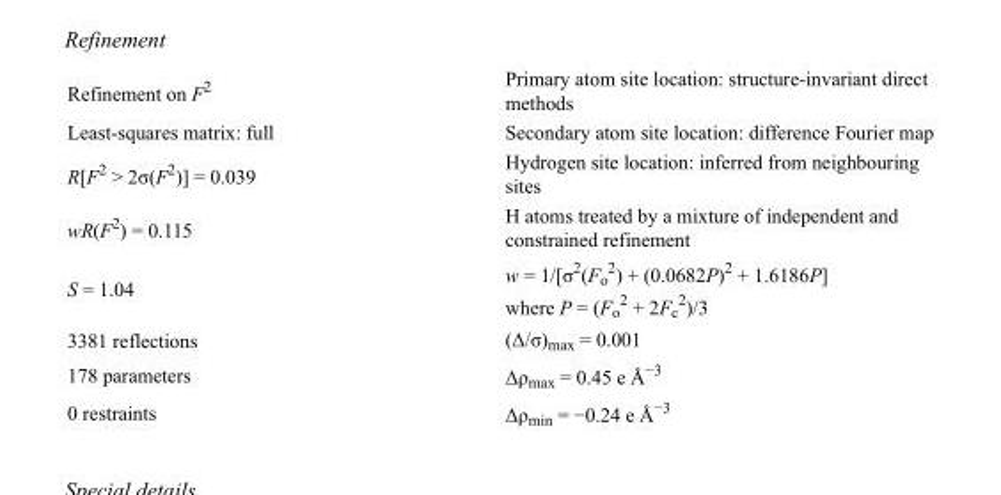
<table><tbody><tr><td>Refinement on F<sup>2</sup></td><td>Primary atom site location: structure-invariant direct methods</td></tr><tr><td>Least-squares matrix: full</td><td>Secondary atom site location: difference Fourier map</td></tr><tr><td>R[F<sup>2</sup> &gt; 2σ(F<sup>2</sup>)] = 0.039</td><td>Hydrogen site location: inferred from neighbouring sites</td></tr><tr><td>wR(F<sup>2</sup>) = 0.115</td><td>H atoms treated by a mixture of independent and constrained refinement</td></tr><tr><td>S = 1.04</td><td>w = 1/[σ<sup>2</sup>(F<sub>o</sub> <sup>2</sup>) + (0.0682P)<sup>2</sup> + 1.6186P] where P = (F<sub>o</sub> <sup>2</sup> + 2F<sub>c</sub> <sup>2</sup>)/3</td></tr><tr><td>3381 reflections</td><td>(Δ/σ)<sub>max</sub> = 0.001</td></tr><tr><td>178 parameters</td><td>Δρ<sub>max</sub> = 0.45 e Å<sup>−3</sup></td></tr><tr><td>0 restraints</td><td>Δρ<sub>min</sub> = −0.24 e Å<sup>−3</sup></td></tr></tbody></table>